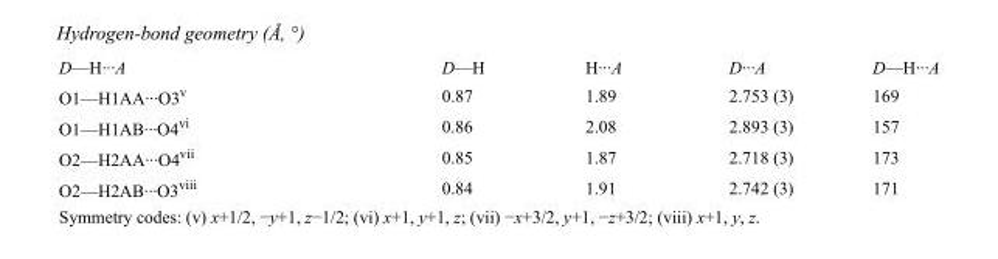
<table><tbody><tr><td>D—H···A</td><td>D—H</td><td>H···A</td><td>D···A</td><td>D—H···A</td></tr><tr><td>O1—H1AA···O3<sup>v</sup></td><td>0.87</td><td>1.89</td><td>2.753 (3)</td><td>169</td></tr><tr><td>O1—H1AB···O4<sup>vi</sup></td><td>0.86</td><td>2.08</td><td>2.893 (3)</td><td>157</td></tr><tr><td>O2—H2AA···O4<sup>vii</sup></td><td>0.85</td><td>1.87</td><td>2.718 (3)</td><td>173</td></tr><tr><td>O2—H2AB···O3<sup>viii</sup></td><td>0.84</td><td>1.91</td><td>2.742 (3)</td><td>171</td></tr></tbody></table>